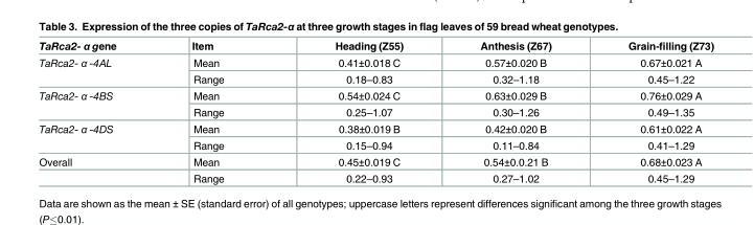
<table><thead><tr><td>TaRca2- α gene</td><td>Item</td><td>Heading (Z55)</td><td>Anthesis (Z67)</td><td>Grain-filling (Z73)</td></tr></thead><tbody><tr><td rowspan="2">TaRca2- α -4AL</td><td>Mean</td><td>0.41±0.018 C</td><td>0.57±0.020 B</td><td>0.67±0.021 A</td></tr><tr><td>Range</td><td>0.18–0.83</td><td>0.32–1.18</td><td>0.45–1.22</td></tr><tr><td rowspan="2">TaRca2- α -4BS</td><td>Mean</td><td>0.54±0.024 C</td><td>0.63±0.029 B</td><td>0.76±0.029 A</td></tr><tr><td>Range</td><td>0.25–1.07</td><td>0.30–1.26</td><td>0.49–1.35</td></tr><tr><td rowspan="2">TaRca2- α -4DS</td><td>Mean</td><td>0.38±0.019 B</td><td>0.42±0.020 B</td><td>0.61±0.022 A</td></tr><tr><td>Range</td><td>0.15–0.94</td><td>0.11–0.84</td><td>0.41–1.29</td></tr><tr><td rowspan="2">Overall</td><td>Mean</td><td>0.45±0.019 C</td><td>0.54±0.0.21 B</td><td>0.68±0.023 A</td></tr><tr><td>Range</td><td>0.22–0.93</td><td>0.27–1.02</td><td>0.45–1.29</td></tr></tbody></table>